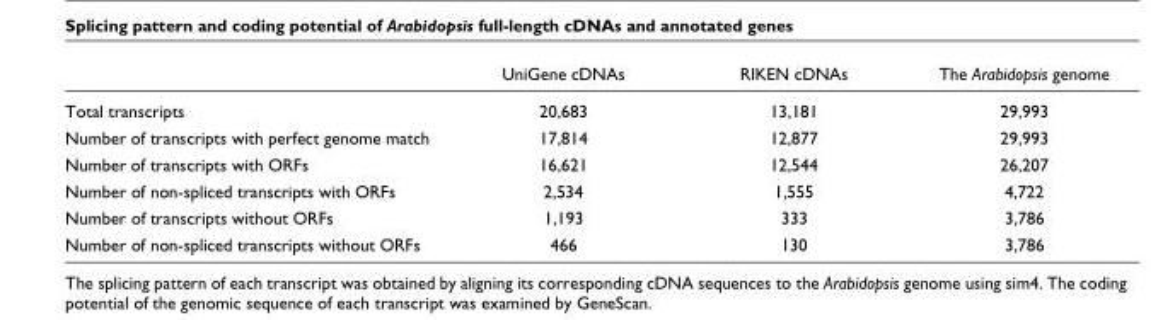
<table><thead><tr><td></td><td>UniGene cDNAs</td><td>RIKEN cDNAs</td><td>The Arabidopsis genome</td></tr></thead><tbody><tr><td>Total transcripts</td><td>20,683</td><td>13,181</td><td>29,993</td></tr><tr><td>Number of transcripts with perfect genome match</td><td>17,814</td><td>12,877</td><td>29,993</td></tr><tr><td>Number of transcripts with ORFs</td><td>16,621</td><td>12,544</td><td>26,207</td></tr><tr><td>Number of non-spliced transcripts with ORFs</td><td>2,534</td><td>1,555</td><td>4,722</td></tr><tr><td>Number of transcripts without ORFs</td><td>1,193</td><td>333</td><td>3,786</td></tr><tr><td>Number of non-spliced transcripts without ORFs</td><td>466</td><td>130</td><td>3,786</td></tr></tbody></table>